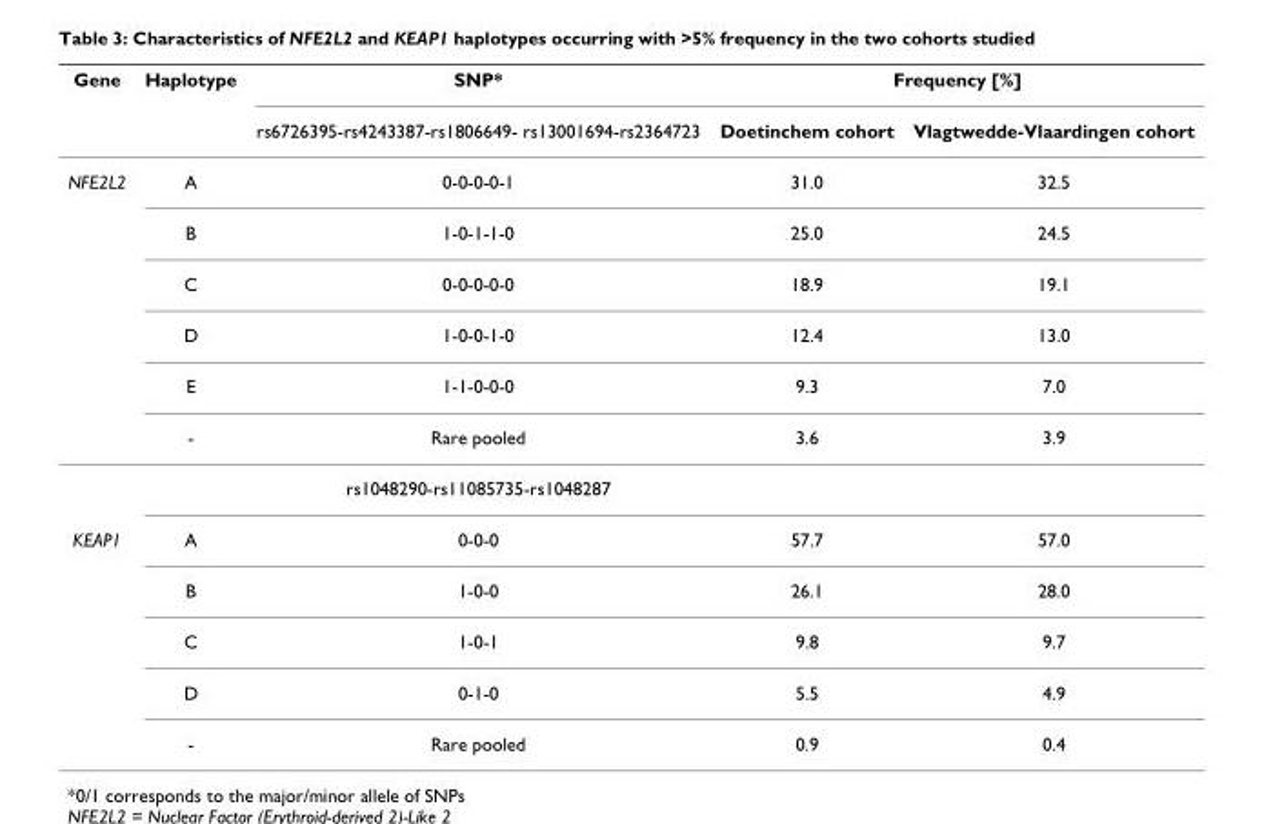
<table><thead><tr><td rowspan="2">Gene</td><td rowspan="2">Haplotype</td><td rowspan="2">SNP* rs6726395-rs4243387-rs1806649- rs13001694-rs2364723</td><td colspan="2">Frequency [%]</td></tr><tr><td>Doetinchem cohort</td><td>Vlagtwedde-Vlaardingen cohort</td></tr></thead><tbody><tr><td rowspan="7">NFE2L2</td><td>A</td><td>0-0-0-0-1</td><td>31.0</td><td>32.5</td></tr><tr><td>B</td><td>1-0-1-1-0</td><td>25.0</td><td>24.5</td></tr><tr><td>C</td><td>0-0-0-0-0</td><td>18.9</td><td>19.1</td></tr><tr><td>D</td><td>1-0-0-1-0</td><td>12.4</td><td>13.0</td></tr><tr><td>E</td><td>1-1-0-0-0</td><td>9.3</td><td>7.0</td></tr><tr><td>-</td><td>Rare pooled</td><td>3.6</td><td>3.9</td></tr><tr><td></td><td>rs1048290-rs11085735-rs1048287</td><td></td><td></td></tr><tr><td rowspan="5">KEAP1</td><td>A</td><td>0-0-0</td><td>57.7</td><td>57.0</td></tr><tr><td>B</td><td>1-0-0</td><td>26.1</td><td>28.0</td></tr><tr><td>C</td><td>1-0-1</td><td>9.8</td><td>9.7</td></tr><tr><td>D</td><td>0-1-0</td><td>5.5</td><td>4.9</td></tr><tr><td>-</td><td>Rare pooled</td><td>0.9</td><td>0.4</td></tr></tbody></table>